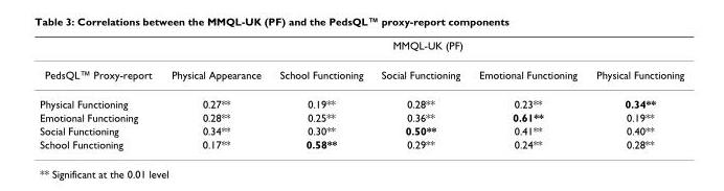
<table><thead><tr><td rowspan="2">PedsQL™ Proxy-report</td><td colspan="5">MMQL-UK (PF)</td></tr><tr><td>Physical Appearance</td><td>School Functioning</td><td>Social Functioning</td><td>Emotional Functioning</td><td>Physical Functioning</td></tr></thead><tbody><tr><td>Physical Functioning</td><td>0.27**</td><td>0.19**</td><td>0.28**</td><td>0.23**</td><td>0.34**</td></tr><tr><td>Emotional Functioning</td><td>0.28**</td><td>0.25**</td><td>0.36**</td><td>0.61**</td><td>0.19**</td></tr><tr><td>Social Functioning</td><td>0.34**</td><td>0.30**</td><td>0.50**</td><td>0.41**</td><td>0.40**</td></tr><tr><td>School Functioning</td><td>0.17**</td><td>0.58**</td><td>0.29**</td><td>0.24**</td><td>0.28**</td></tr></tbody></table>